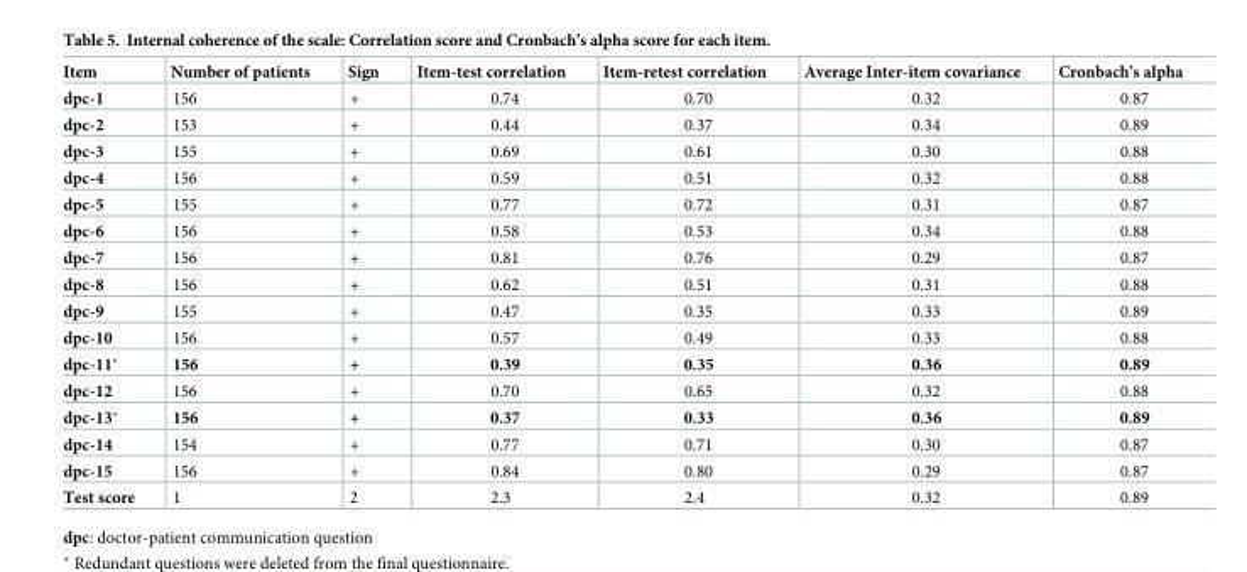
<table><thead><tr><td>Item</td><td>Number of patients</td><td>Sign</td><td>Item-test correlation</td><td>Item-retest correlation</td><td>Average Inter-item covariance</td><td>Cronbach’s alpha</td></tr></thead><tbody><tr><td>dpc-1</td><td>156</td><td>+</td><td>0.74</td><td>0.70</td><td>0.32</td><td>0.87</td></tr><tr><td>dpc-2</td><td>153</td><td>+</td><td>0.44</td><td>0.37</td><td>0.34</td><td>0.89</td></tr><tr><td>dpc-3</td><td>155</td><td>+</td><td>0.69</td><td>0.61</td><td>0.30</td><td>0.88</td></tr><tr><td>dpc-4</td><td>156</td><td>+</td><td>0.59</td><td>0.51</td><td>0.32</td><td>0.88</td></tr><tr><td>dpc-5</td><td>155</td><td>+</td><td>0.77</td><td>0.72</td><td>0.31</td><td>0.87</td></tr><tr><td>dpc-6</td><td>156</td><td>+</td><td>0.58</td><td>0.53</td><td>0.34</td><td>0.88</td></tr><tr><td>dpc-7</td><td>156</td><td>+</td><td>0.81</td><td>0.76</td><td>0.29</td><td>0.87</td></tr><tr><td>dpc-8</td><td>156</td><td>+</td><td>0.62</td><td>0.51</td><td>0.31</td><td>0.88</td></tr><tr><td>dpc-9</td><td>155</td><td>+</td><td>0.47</td><td>0.35</td><td>0.33</td><td>0.89</td></tr><tr><td>dpc-10</td><td>156</td><td>+</td><td>0.57</td><td>0.49</td><td>0.33</td><td>0.88</td></tr><tr><td>dpc-11*</td><td>156</td><td>+</td><td>0.39</td><td>0.35</td><td>0.36</td><td>0.89</td></tr><tr><td>dpc-12</td><td>156</td><td>+</td><td>0.70</td><td>0.65</td><td>0.32</td><td>0.88</td></tr><tr><td>dpc-13*</td><td>156</td><td>+</td><td>0.37</td><td>0.33</td><td>0.36</td><td>0.89</td></tr><tr><td>dpc-14</td><td>154</td><td>+</td><td>0.77</td><td>0.71</td><td>0.30</td><td>0.87</td></tr><tr><td>dpc-15</td><td>156</td><td>+</td><td>0.84</td><td>0.80</td><td>0.29</td><td>0.87</td></tr><tr><td>Test score</td><td>1</td><td>2</td><td>2.3</td><td>2.4</td><td>0.32</td><td>0.89</td></tr></tbody></table>